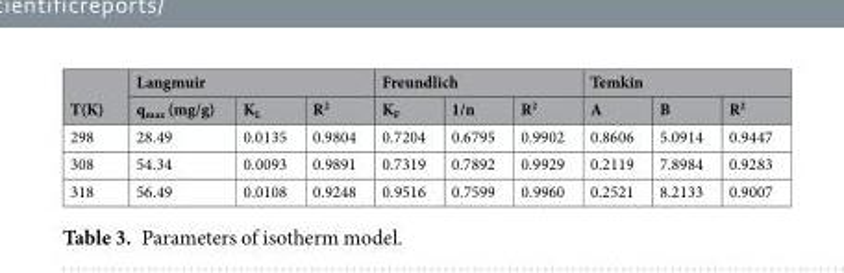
<table><thead><tr><td rowspan="2">T(K)</td><td colspan="3">Langmuir</td><td colspan="3">Freundlich</td><td colspan="3">Temkin</td></tr><tr><td>q<sub>max</sub> (mg/g)</td><td>K<sub>L</sub></td><td>R<sup>2</sup></td><td>K<sub>F</sub></td><td>1/n</td><td>R<sup>2</sup></td><td>A</td><td>B</td><td>R<sup>2</sup></td></tr></thead><tbody><tr><td>298</td><td>28.49</td><td>0.0135</td><td>0.9804</td><td>0.7204</td><td>0.6795</td><td>0.9902</td><td>0.8606</td><td>5.0914</td><td>0.9447</td></tr><tr><td>308</td><td>54.34</td><td>0.0093</td><td>0.9891</td><td>0.7319</td><td>0.7892</td><td>0.9929</td><td>0.2119</td><td>7.8984</td><td>0.9283</td></tr><tr><td>318</td><td>56.49</td><td>0.0108</td><td>0.9248</td><td>0.9516</td><td>0.7599</td><td>0.9960</td><td>0.2521</td><td>8.2133</td><td>0.9007</td></tr></tbody></table>